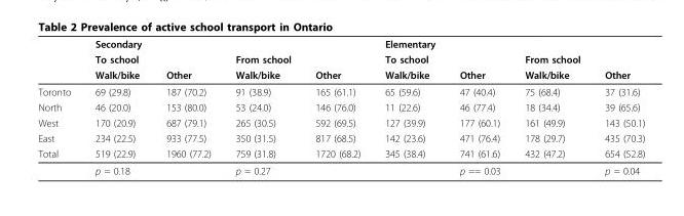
<table><thead><tr><td rowspan="3"></td><td rowspan="3">Secondary To school Walk/bike</td><td rowspan="3">Other</td><td rowspan="3">From school Walk/bike</td><td rowspan="3">Other</td><td rowspan="3">Elementary To school Walk/bike</td><td rowspan="3">Other</td><td rowspan="3">From school Walk/bike</td><td rowspan="3">Other</td></tr><tr></tr><tr></tr></thead><tbody><tr><td>Toronto</td><td>69 (29.8)</td><td>187 (70.2)</td><td>91 (38.9)</td><td>165 (61.1)</td><td>65 (59.6)</td><td>47 (40.4)</td><td>75 (68.4)</td><td>37 (31.6)</td></tr><tr><td>North</td><td>46 (20.0)</td><td>153 (80.0)</td><td>53 (24.0)</td><td>146 (76.0)</td><td>11 (22.6)</td><td>46 (77.4)</td><td>18 (34.4)</td><td>39 (65.6)</td></tr><tr><td>West</td><td>170 (20.9)</td><td>687 (79.1)</td><td>265 (30.5)</td><td>592 (69.5)</td><td>127 (39.9)</td><td>177 (60.1)</td><td>161 (49.9)</td><td>143 (50.1)</td></tr><tr><td>East</td><td>234 (22.5)</td><td>933 (77.5)</td><td>350 (31.5)</td><td>817 (68.5)</td><td>142 (23.6)</td><td>471 (76.4)</td><td>178 (29.7)</td><td>435 (70.3)</td></tr><tr><td rowspan="2">Total</td><td>519 (22.9)</td><td>1960 (77.2)</td><td>759 (31.8)</td><td>1720 (68.2)</td><td>345 (38.4)</td><td>741 (61.6)</td><td>432 (47.2)</td><td>654 (52.8)</td></tr><tr><td>p = 0.18</td><td></td><td>p = 0.27</td><td></td><td></td><td>p == 0.03</td><td></td><td>p = 0.04</td></tr></tbody></table>